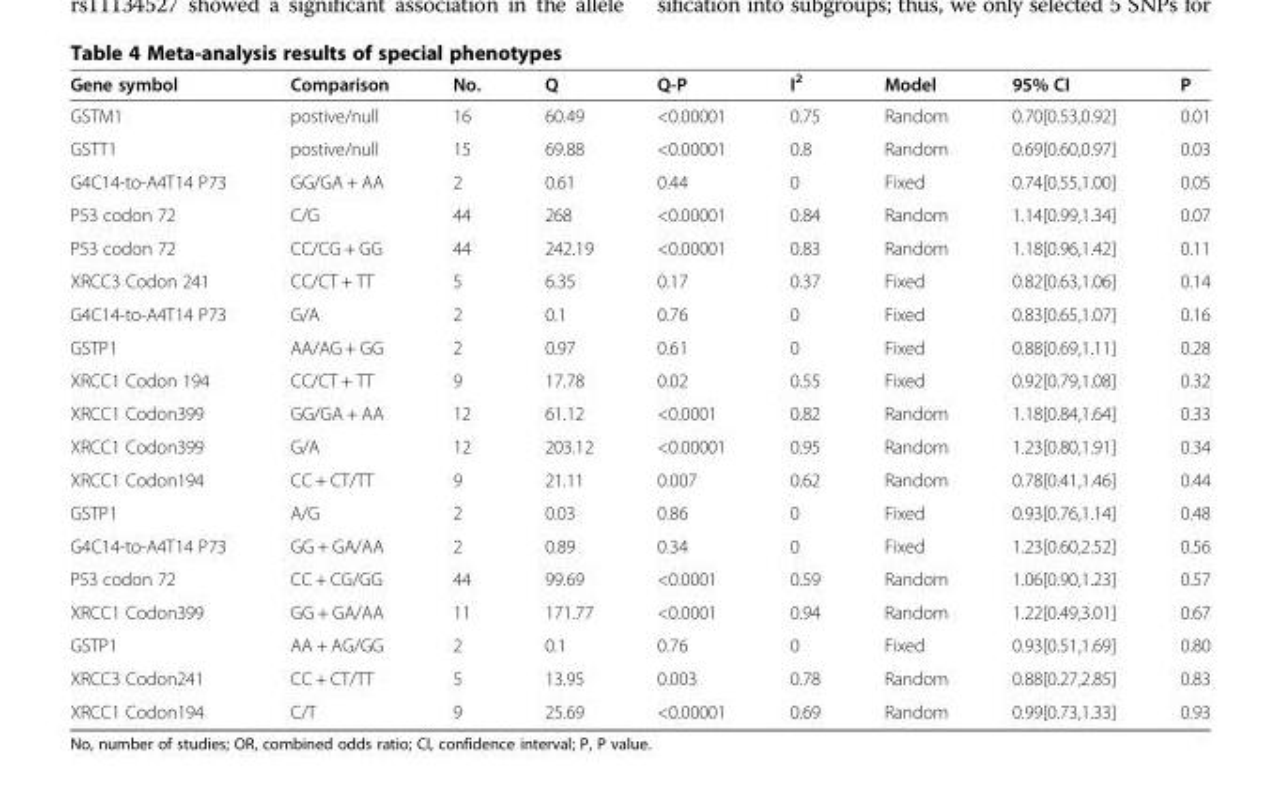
<table><thead><tr><td>Gene symbol</td><td>Comparison</td><td>No.</td><td>Q</td><td>Q-P</td><td>I<sup>2</sup></td><td>Model</td><td>95% CI</td><td>P</td></tr></thead><tbody><tr><td>GSTM1</td><td>postive/null</td><td>16</td><td>60.49</td><td>&lt;0.00001</td><td>0.75</td><td>Random</td><td>0.70[0.53,0.92]</td><td>0.01</td></tr><tr><td>GSTT1</td><td>postive/null</td><td>15</td><td>69.88</td><td>&lt;0.00001</td><td>0.8</td><td>Random</td><td>0.69[0.60,0.97]</td><td>0.03</td></tr><tr><td>G4C14-to-A4T14 P73</td><td>GG/GA + AA</td><td>2</td><td>0.61</td><td>0.44</td><td>0</td><td>Fixed</td><td>0.74[0.55,1.00]</td><td>0.05</td></tr><tr><td>P53 codon 72</td><td>C/G</td><td>44</td><td>268</td><td>&lt;0.00001</td><td>0.84</td><td>Random</td><td>1.14[0.99,1.34]</td><td>0.07</td></tr><tr><td>P53 codon 72</td><td>CC/CG + GG</td><td>44</td><td>242.19</td><td>&lt;0.00001</td><td>0.83</td><td>Random</td><td>1.18[0.96,1.42]</td><td>0.11</td></tr><tr><td>XRCC3 Codon 241</td><td>CC/CT + TT</td><td>5</td><td>6.35</td><td>0.17</td><td>0.37</td><td>Fixed</td><td>0.82[0.63,1.06]</td><td>0.14</td></tr><tr><td>G4C14-to-A4T14 P73</td><td>G/A</td><td>2</td><td>0.1</td><td>0.76</td><td>0</td><td>Fixed</td><td>0.83[0.65,1.07]</td><td>0.16</td></tr><tr><td>GSTP1</td><td>AA/AG + GG</td><td>2</td><td>0.97</td><td>0.61</td><td>0</td><td>Fixed</td><td>0.88[0.69,1.11]</td><td>0.28</td></tr><tr><td>XRCC1 Codon 194</td><td>CC/CT + TT</td><td>9</td><td>17.78</td><td>0.02</td><td>0.55</td><td>Fixed</td><td>0.92[0.79,1.08]</td><td>0.32</td></tr><tr><td>XRCC1 Codon399</td><td>GG/GA + AA</td><td>12</td><td>61.12</td><td>&lt;0.0001</td><td>0.82</td><td>Random</td><td>1.18[0.84,1.64]</td><td>0.33</td></tr><tr><td>XRCC1 Codon399</td><td>G/A</td><td>12</td><td>203.12</td><td>&lt;0.00001</td><td>0.95</td><td>Random</td><td>1.23[0.80,1.91]</td><td>0.34</td></tr><tr><td>XRCC1 Codon194</td><td>CC + CT/TT</td><td>9</td><td>21.11</td><td>0.007</td><td>0.62</td><td>Random</td><td>0.78[0.41,1.46]</td><td>0.44</td></tr><tr><td>GSTP1</td><td>A/G</td><td>2</td><td>0.03</td><td>0.86</td><td>0</td><td>Fixed</td><td>0.93[0.76,1.14]</td><td>0.48</td></tr><tr><td>G4C14-to-A4T14 P73</td><td>GG + GA/AA</td><td>2</td><td>0.89</td><td>0.34</td><td>0</td><td>Fixed</td><td>1.23[0.60,2.52]</td><td>0.56</td></tr><tr><td>P53 codon 72</td><td>CC + CG/GG</td><td>44</td><td>99.69</td><td>&lt;0.0001</td><td>0.59</td><td>Random</td><td>1.06[0.90,1.23]</td><td>0.57</td></tr><tr><td>XRCC1 Codon399</td><td>GG + GA/AA</td><td>11</td><td>171.77</td><td>&lt;0.0001</td><td>0.94</td><td>Random</td><td>1.22[0.49,3.01]</td><td>0.67</td></tr><tr><td>GSTP1</td><td>AA + AG/GG</td><td>2</td><td>0.1</td><td>0.76</td><td>0</td><td>Fixed</td><td>0.93[0.51,1.69]</td><td>0.80</td></tr><tr><td>XRCC3 Codon241</td><td>CC + CT/TT</td><td>5</td><td>13.95</td><td>0.003</td><td>0.78</td><td>Random</td><td>0.88[0.27,2.85]</td><td>0.83</td></tr><tr><td>XRCC1 Codon194</td><td>C/T</td><td>9</td><td>25.69</td><td>&lt;0.00001</td><td>0.69</td><td>Random</td><td>0.99[0.73,1.33]</td><td>0.93</td></tr></tbody></table>